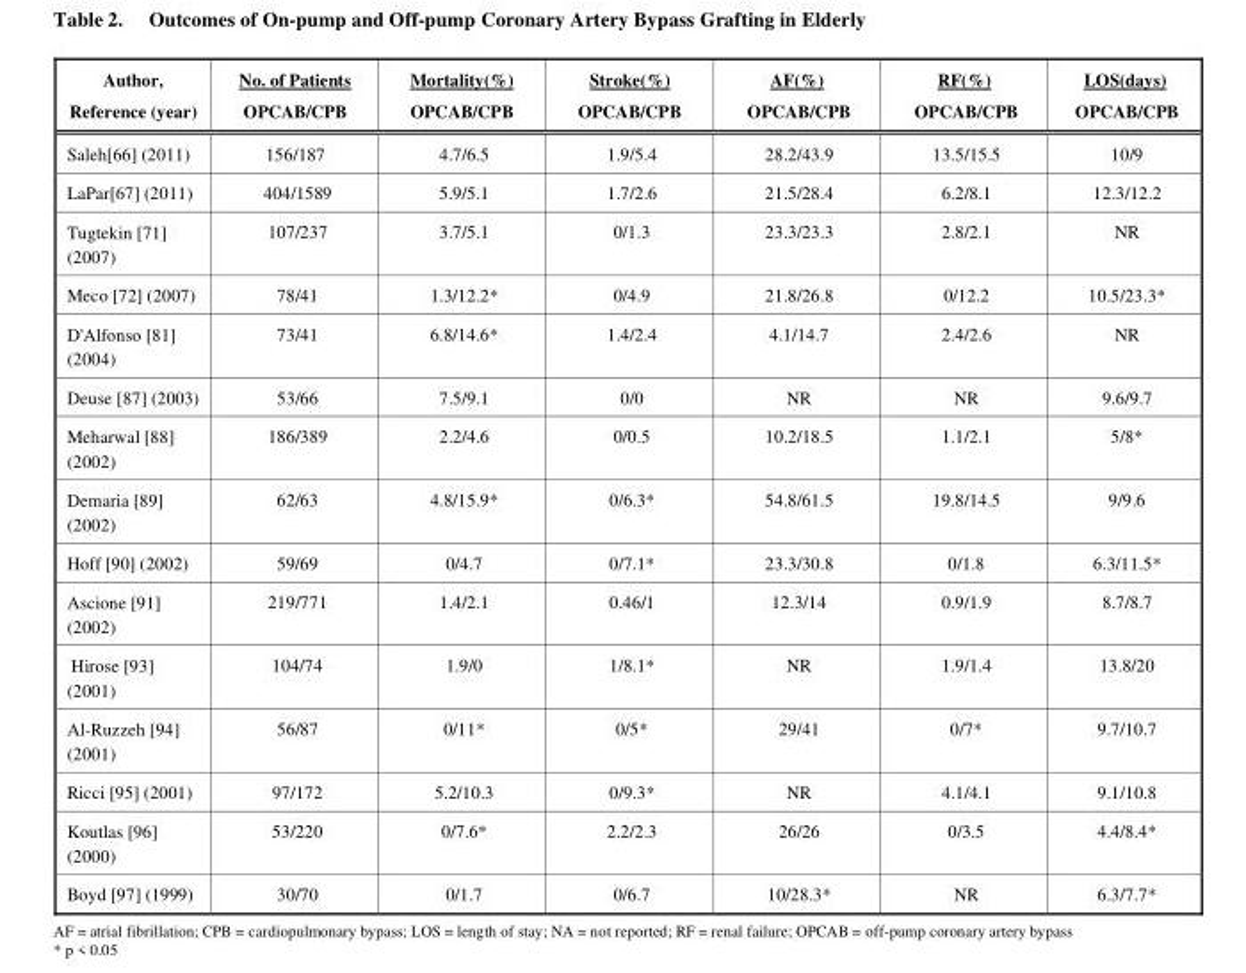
<table><thead><tr><td>Author, Reference (year)</td><td>No. of Patients OPCAB/CPB</td><td>Mortality(%) OPCAB/CPB</td><td>Stroke(%) OPCAB/CPB</td><td>AF(%) OPCAB/CPB</td><td>RF(%) OPCAB/CPB</td><td>LOS(days) OPCAB/CPB</td></tr></thead><tbody><tr><td>Saleh[66] (2011)</td><td>156/187</td><td>4.7/6.5</td><td>1.9/5.4</td><td>28.2/43.9</td><td>13.5/15.5</td><td>10/9</td></tr><tr><td>LaPar[67] (2011)</td><td>404/1589</td><td>5.9/5.1</td><td>1.7/2.6</td><td>21.5/28.4</td><td>6.2/8.1</td><td>12.3/12.2</td></tr><tr><td>Tugtekin [71] (2007)</td><td>107/237</td><td>3.7/5.1</td><td>0/1.3</td><td>23.3/23.3</td><td>2.8/2.1</td><td>NR</td></tr><tr><td>Meco [72] (2007)</td><td>78/41</td><td>1.3/12.2*</td><td>0/4.9</td><td>21.8/26.8</td><td>0/12.2</td><td>10.5/23.3*</td></tr><tr><td>D&#x27;Alfonso [81] (2004)</td><td>73/41</td><td>6.8/14.6*</td><td>1.4/2.4</td><td>4.1/14.7</td><td>2.4/2.6</td><td>NR</td></tr><tr><td>Deuse [87] (2003)</td><td>53/66</td><td>7.5/9.1</td><td>0/0</td><td>NR</td><td>NR</td><td>9.6/9.7</td></tr><tr><td>Meharwal [88] (2002)</td><td>186/389</td><td>2.2/4.6</td><td>0/0.5</td><td>10.2/18.5</td><td>1.1/2.1</td><td>5/8*</td></tr><tr><td>Demaria [89] (2002)</td><td>62/63</td><td>4.8/15.9*</td><td>0/6.3*</td><td>54.8/61.5</td><td>19.8/14.5</td><td>9/9.6</td></tr><tr><td>Hoff [90] (2002)</td><td>59/69</td><td>0/4.7</td><td>0/7.1*</td><td>23.3/30.8</td><td>0/1.8</td><td>6.3/11.5*</td></tr><tr><td>Ascione [91] (2002)</td><td>219/771</td><td>1.4/2.1</td><td>0.46/1</td><td>12.3/14</td><td>0.9/1.9</td><td>8.7/8.7</td></tr><tr><td>Hirose [93] (2001)</td><td>104/74</td><td>1.9/0</td><td>1/8.1*</td><td>NR</td><td>1.9/1.4</td><td>13.8/20</td></tr><tr><td>Al-Ruzzeh [94] (2001)</td><td>56/87</td><td>0/11*</td><td>0/5*</td><td>29/41</td><td>0/7*</td><td>9.7/10.7</td></tr><tr><td>Ricci [95] (2001)</td><td>97/172</td><td>5.2/10.3</td><td>0/9.3*</td><td>NR</td><td>4.1/4.1</td><td>9.1/10.8</td></tr><tr><td>Koutlas [96] (2000)</td><td>53/220</td><td>0/7.6*</td><td>2.2/2.3</td><td>26/26</td><td>0/3.5</td><td>4.4/8.4*</td></tr><tr><td>Boyd [97] (1999)</td><td>30/70</td><td>0/1.7</td><td>0/6.7</td><td>10/28.3*</td><td>NR</td><td>6.3/7.7*</td></tr></tbody></table>